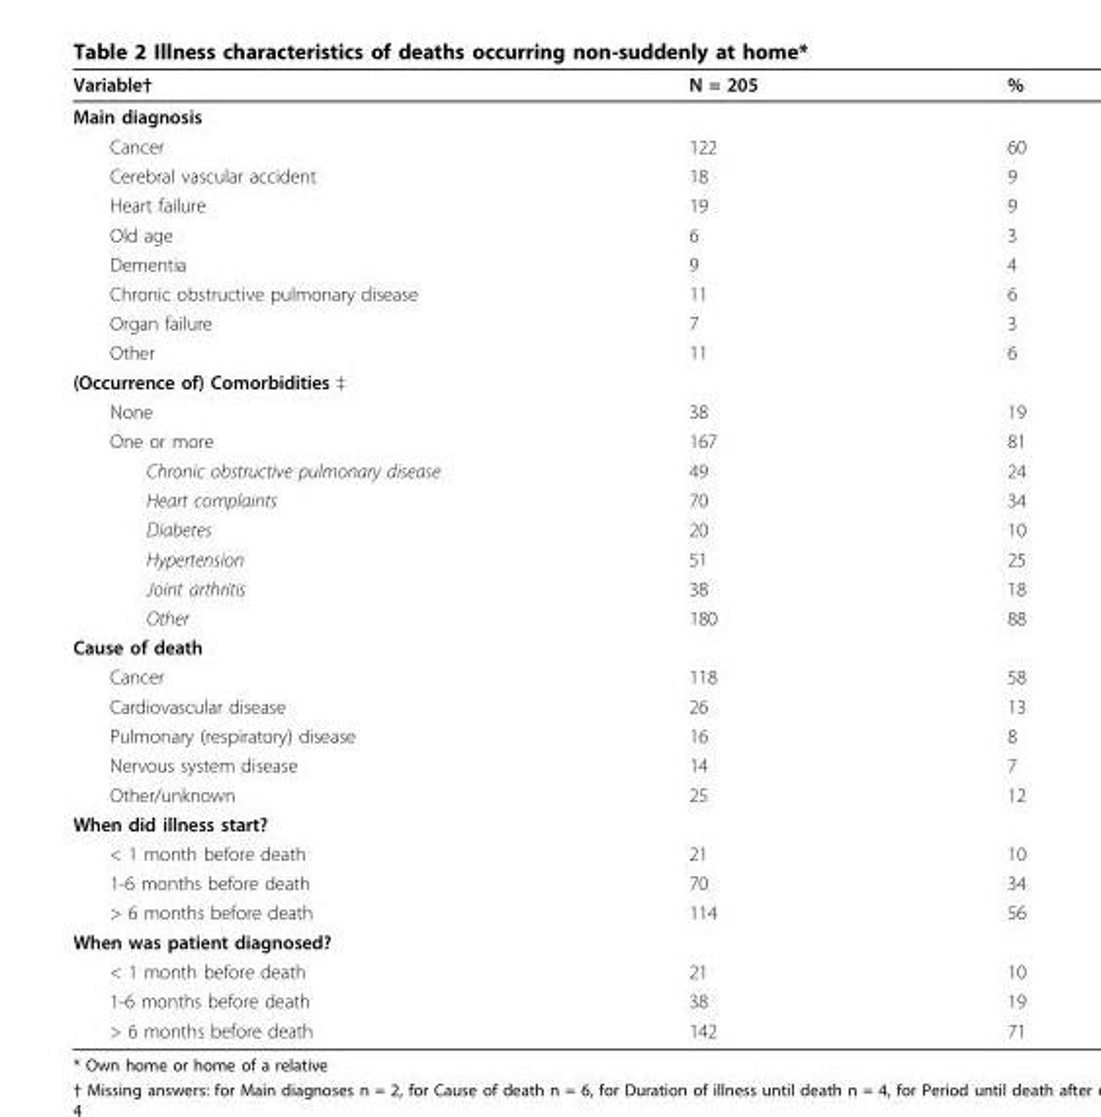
<table><thead><tr><td>Variable†</td><td>N = 205</td><td>%</td></tr></thead><tbody><tr><td colspan="3">Main diagnosis</td></tr><tr><td>Cancer</td><td>122</td><td>60</td></tr><tr><td>Cerebral vascular accident</td><td>18</td><td>9</td></tr><tr><td>Heart failure</td><td>19</td><td>9</td></tr><tr><td>Old age</td><td>6</td><td>3</td></tr><tr><td>Dementia</td><td>9</td><td>4</td></tr><tr><td>Chronic obstructive pulmonary disease</td><td>11</td><td>6</td></tr><tr><td>Organ failure</td><td>7</td><td>3</td></tr><tr><td>Other</td><td>11</td><td>6</td></tr><tr><td colspan="3">(Occurrence of) Comorbidities ‡</td></tr><tr><td>None</td><td>38</td><td>19</td></tr><tr><td>One or more</td><td>167</td><td>81</td></tr><tr><td>Chronic obstructive pulmonary disease</td><td>49</td><td>24</td></tr><tr><td>Heart complaints</td><td>70</td><td>34</td></tr><tr><td>Diabetes</td><td>20</td><td>10</td></tr><tr><td>Hypertension</td><td>51</td><td>25</td></tr><tr><td>Joint arthritis</td><td>38</td><td>18</td></tr><tr><td>Other</td><td>180</td><td>88</td></tr><tr><td colspan="3">Cause of death</td></tr><tr><td>Cancer</td><td>118</td><td>58</td></tr><tr><td>Cardiovascular disease</td><td>26</td><td>13</td></tr><tr><td>Pulmonary (respiratory) disease</td><td>16</td><td>8</td></tr><tr><td>Nervous system disease</td><td>14</td><td>7</td></tr><tr><td>Other/unknown</td><td>25</td><td>12</td></tr><tr><td colspan="3">When did illness start?</td></tr><tr><td>&lt; 1 month before death</td><td>21</td><td>10</td></tr><tr><td>1-6 months before death</td><td>70</td><td>34</td></tr><tr><td>&gt; 6 months before death</td><td>114</td><td>56</td></tr><tr><td colspan="3">When was patient diagnosed?</td></tr><tr><td>&lt; 1 month before death</td><td>21</td><td>10</td></tr><tr><td>1-6 months before death</td><td>38</td><td>19</td></tr><tr><td>&gt; 6 months before death</td><td>142</td><td>71</td></tr></tbody></table>